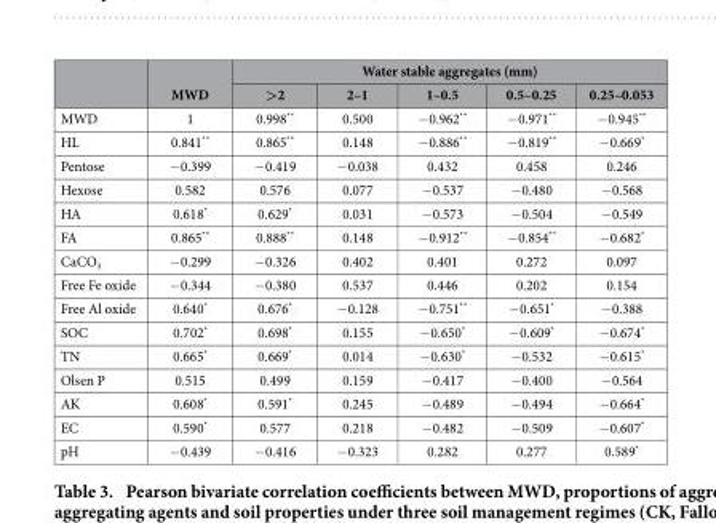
<table><thead><tr><td rowspan="2"></td><td rowspan="2">MWD</td><td colspan="5">Water stable aggregates (mm)</td></tr><tr><td>&gt;2</td><td>2–1</td><td>1–0.5</td><td>0.5–0.25</td><td>0.25–0.053</td></tr></thead><tbody><tr><td>MWD</td><td>1</td><td>0.998**</td><td>0.500</td><td>− 0.962**</td><td>− 0.971**</td><td>− 0.945**</td></tr><tr><td>HL</td><td>0.841**</td><td>0.865**</td><td>0.148</td><td>− 0.886**</td><td>− 0.819**</td><td>− 0.669*</td></tr><tr><td>Pentose</td><td>− 0.399</td><td>− 0.419</td><td>− 0.038</td><td>0.432</td><td>0.458</td><td>0.246</td></tr><tr><td>Hexose</td><td>0.582</td><td>0.576</td><td>0.077</td><td>− 0.537</td><td>− 0.480</td><td>− 0.568</td></tr><tr><td>HA</td><td>0.618*</td><td>0.629*</td><td>0.031</td><td>− 0.573</td><td>− 0.504</td><td>− 0.549</td></tr><tr><td>FA</td><td>0.865**</td><td>0.888**</td><td>0.148</td><td>− 0.912**</td><td>− 0.854**</td><td>− 0.682*</td></tr><tr><td>CaCO<sub>3</sub></td><td>− 0.299</td><td>− 0.326</td><td>0.402</td><td>0.401</td><td>0.272</td><td>0.097</td></tr><tr><td>Free Fe oxide</td><td>− 0.344</td><td>− 0.380</td><td>0.537</td><td>0.446</td><td>0.202</td><td>0.154</td></tr><tr><td>Free Al oxide</td><td>0.640*</td><td>0.676*</td><td>− 0.128</td><td>− 0.751**</td><td>− 0.651*</td><td>− 0.388</td></tr><tr><td>SOC</td><td>0.702*</td><td>0.698*</td><td>0.155</td><td>− 0.650*</td><td>− 0.609*</td><td>− 0.674*</td></tr><tr><td>TN</td><td>0.665*</td><td>0.669*</td><td>0.014</td><td>− 0.630*</td><td>− 0.532</td><td>− 0.615*</td></tr><tr><td>Olsen P</td><td>0.515</td><td>0.499</td><td>0.159</td><td>− 0.417</td><td>− 0.400</td><td>− 0.564</td></tr><tr><td>AK</td><td>0.608*</td><td>0.591*</td><td>0.245</td><td>− 0.489</td><td>− 0.494</td><td>− 0.664*</td></tr><tr><td>EC</td><td>0.590*</td><td>0.577</td><td>0.218</td><td>− 0.482</td><td>− 0.509</td><td>− 0.607*</td></tr><tr><td>pH</td><td>− 0.439</td><td>− 0.416</td><td>− 0.323</td><td>0.282</td><td>0.277</td><td>0.589*</td></tr></tbody></table>